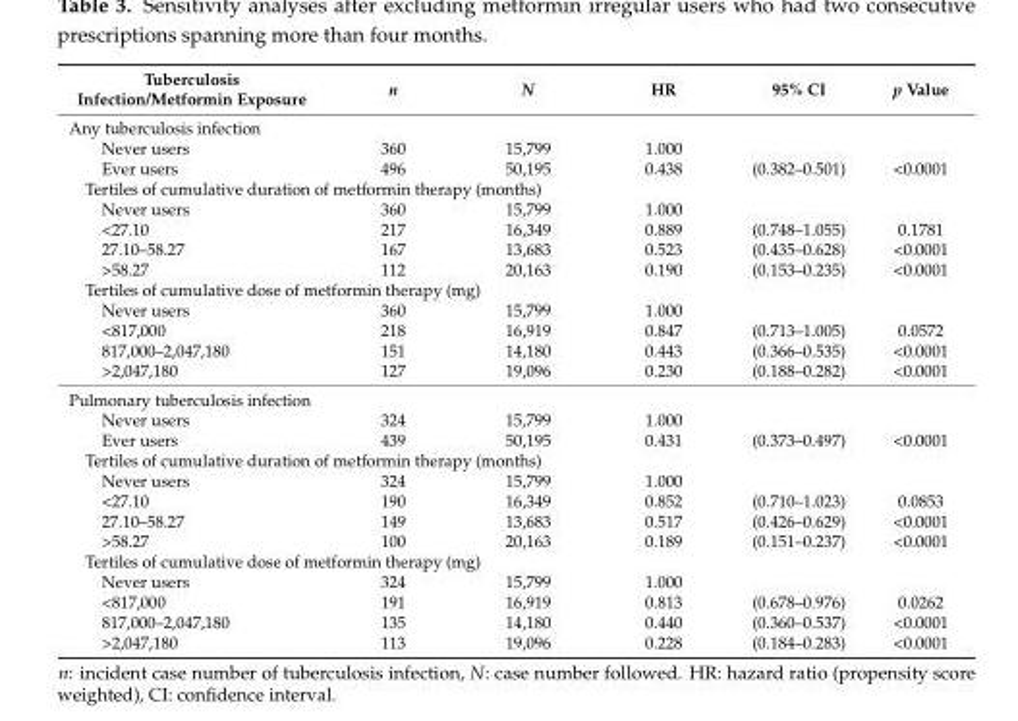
<table><thead><tr><td>Tuberculosis Infection/Metformin Exposure</td><td>n</td><td>N</td><td>HR</td><td>95% CI</td><td>p Value</td></tr></thead><tbody><tr><td colspan="6">Any tuberculosis infection</td></tr><tr><td>Never users</td><td>360</td><td>15,799</td><td>1.000</td><td></td><td></td></tr><tr><td>Ever users</td><td>496</td><td>50,195</td><td>0.438</td><td>(0.382–0.501)</td><td>&lt;0.0001</td></tr><tr><td colspan="6">Tertiles of cumulative duration of metformin therapy (months)</td></tr><tr><td>Never users</td><td>360</td><td>15,799</td><td>1.000</td><td></td><td></td></tr><tr><td>&lt;27.10</td><td>217</td><td>16,349</td><td>0.889</td><td>(0.748–1.055)</td><td>0.1781</td></tr><tr><td>27.10–58.27</td><td>167</td><td>13,683</td><td>0.523</td><td>(0.435–0.628)</td><td>&lt;0.0001</td></tr><tr><td>&gt;58.27</td><td>112</td><td>20,163</td><td>0.190</td><td>(0.153–0.235)</td><td>&lt;0.0001</td></tr><tr><td colspan="6">Tertiles of cumulative dose of metformin therapy (mg)</td></tr><tr><td>Never users</td><td>360</td><td>15,799</td><td>1.000</td><td></td><td></td></tr><tr><td>&lt;817,000</td><td>218</td><td>16,919</td><td>0.847</td><td>(0.713–1.005)</td><td>0.0572</td></tr><tr><td>817,000–2,047,180</td><td>151</td><td>14,180</td><td>0.443</td><td>(0.366–0.535)</td><td>&lt;0.0001</td></tr><tr><td>&gt;2,047,180</td><td>127</td><td>19,096</td><td>0.230</td><td>(0.188–0.282)</td><td>&lt;0.0001</td></tr><tr><td colspan="6">Pulmonary tuberculosis infection</td></tr><tr><td>Never users</td><td>324</td><td>15,799</td><td>1.000</td><td></td><td></td></tr><tr><td>Ever users</td><td>439</td><td>50,195</td><td>0.431</td><td>(0.373–0.497)</td><td>&lt;0.0001</td></tr><tr><td colspan="6">Tertiles of cumulative duration of metformin therapy (months)</td></tr><tr><td>Never users</td><td>324</td><td>15,799</td><td>1.000</td><td></td><td></td></tr><tr><td>&lt;27.10</td><td>190</td><td>16,349</td><td>0.852</td><td>(0.710–1.023)</td><td>0.0853</td></tr><tr><td>27.10–58.27</td><td>149</td><td>13,683</td><td>0.517</td><td>(0.426–0.629)</td><td>&lt;0.0001</td></tr><tr><td>&gt;58.27</td><td>100</td><td>20,163</td><td>0.189</td><td>(0.151–0.237)</td><td>&lt;0.0001</td></tr><tr><td colspan="6">Tertiles of cumulative dose of metformin therapy (mg)</td></tr><tr><td>Never users</td><td>324</td><td>15,799</td><td>1.000</td><td></td><td></td></tr><tr><td>&lt;817,000</td><td>191</td><td>16,919</td><td>0.813</td><td>(0.678–0.976)</td><td>0.0262</td></tr><tr><td>817,000–2,047,180</td><td>135</td><td>14,180</td><td>0.440</td><td>(0.360–0.537)</td><td>&lt;0.0001</td></tr><tr><td>&gt;2,047,180</td><td>113</td><td>19,096</td><td>0.228</td><td>(0.184–0.283)</td><td>&lt;0.0001</td></tr></tbody></table>